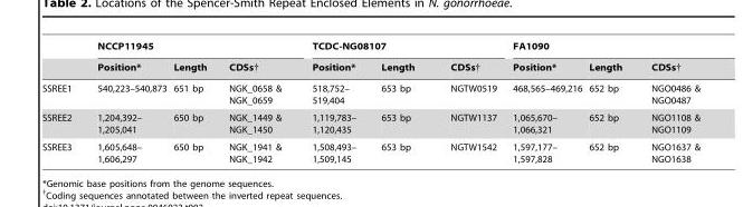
<table><thead><tr><td rowspan="2"></td><td colspan="3">NCCP11945</td><td colspan="3">TCDC-NG08107</td><td colspan="3">FA1090</td></tr><tr><td>Position*</td><td>Length</td><td>CDSs†</td><td>Position*</td><td>Length</td><td>CDSs†</td><td>Position*</td><td>Length</td><td>CDSs†</td></tr></thead><tbody><tr><td>SSREE1</td><td>540,223–540,873</td><td>651 bp</td><td>NGK_0658 &amp; NGK_0659</td><td>518,752– 519,404</td><td>653 bp</td><td>NGTW0519</td><td>468,565–469,216</td><td>652 bp</td><td>NGO0486 &amp; NGO0487</td></tr><tr><td>SSREE2</td><td>1,204,392– 1,205,041</td><td>650 bp</td><td>NGK_1449 &amp; NGK_1450</td><td>1,119,783– 1,120,435</td><td>653 bp</td><td>NGTW1137</td><td>1,065,670– 1,066,321</td><td>652 bp</td><td>NGO1108 &amp; NGO1109</td></tr><tr><td>SSREE3</td><td>1,605,648– 1,606,297</td><td>650 bp</td><td>NGK_1941 &amp; NGK_1942</td><td>1,508,493– 1,509,145</td><td>653 bp</td><td>NGTW1542</td><td>1,597,177– 1,597,828</td><td>652 bp</td><td>NGO1637 &amp; NGO1638</td></tr></tbody></table>